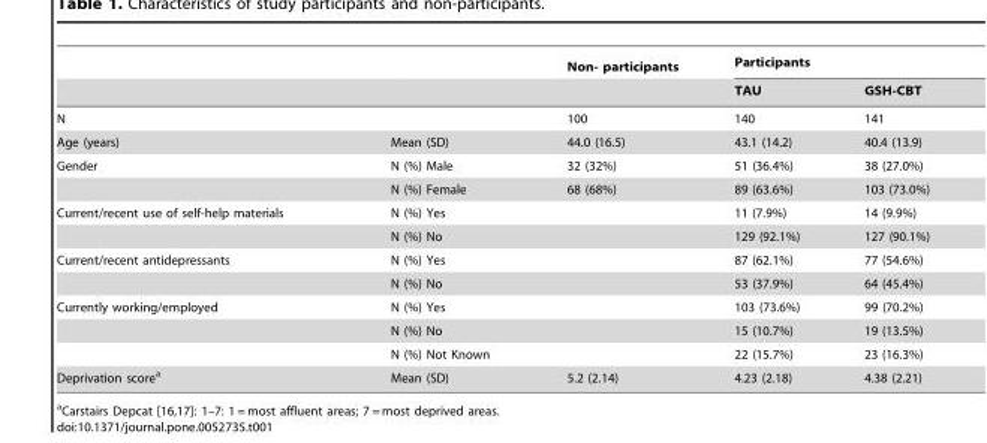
<table><thead><tr><td rowspan="2"></td><td rowspan="2"></td><td rowspan="2">Non- participants</td><td colspan="2">Participants</td></tr><tr><td>TAU</td><td>GSH-CBT</td></tr></thead><tbody><tr><td>N</td><td></td><td>100</td><td>140</td><td>141</td></tr><tr><td>Age (years)</td><td>Mean (SD)</td><td>44.0 (16.5)</td><td>43.1 (14.2)</td><td>40.4 (13.9)</td></tr><tr><td rowspan="2">Gender</td><td>N (%) Male</td><td>32 (32%)</td><td>51 (36.4%)</td><td>38 (27.0%)</td></tr><tr><td>N (%) Female</td><td>68 (68%)</td><td>89 (63.6%)</td><td>103 (73.0%)</td></tr><tr><td rowspan="2">Current/recent use of self-help materials</td><td>N (%) Yes</td><td></td><td>11 (7.9%)</td><td>14 (9.9%)</td></tr><tr><td>N (%) No</td><td></td><td>129 (92.1%)</td><td>127 (90.1%)</td></tr><tr><td rowspan="2">Current/recent antidepressants</td><td>N (%) Yes</td><td></td><td>87 (62.1%)</td><td>77 (54.6%)</td></tr><tr><td>N (%) No</td><td></td><td>53 (37.9%)</td><td>64 (45.4%)</td></tr><tr><td rowspan="3">Currently working/employed</td><td>N (%) Yes</td><td></td><td>103 (73.6%)</td><td>99 (70.2%)</td></tr><tr><td>N (%) No</td><td></td><td>15 (10.7%)</td><td>19 (13.5%)</td></tr><tr><td>N (%) Not Known</td><td></td><td>22 (15.7%)</td><td>23 (16.3%)</td></tr><tr><td>Deprivation score<sup>a</sup></td><td>Mean (SD)</td><td>5.2 (2.14)</td><td>4.23 (2.18)</td><td>4.38 (2.21)</td></tr></tbody></table>